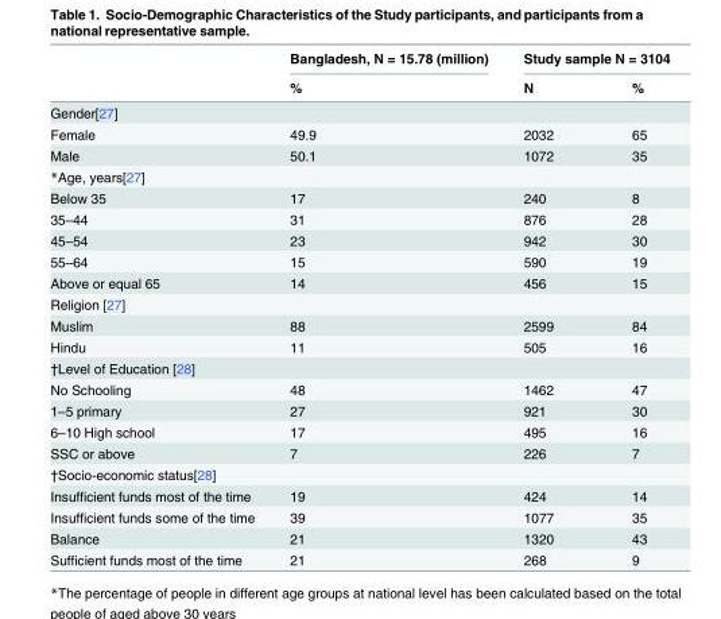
<table><thead><tr><td rowspan="2"></td><td rowspan="2">Bangladesh, N = 15.78 (million) %</td><td colspan="2">Study sample N = 3104</td></tr><tr><td>N</td><td>%</td></tr></thead><tbody><tr><td colspan="4">Gender[27]</td></tr><tr><td>Female</td><td>49.9</td><td>2032</td><td>65</td></tr><tr><td>Male</td><td>50.1</td><td>1072</td><td>35</td></tr><tr><td colspan="4">*Age, years[27]</td></tr><tr><td>Below 35</td><td>17</td><td>240</td><td>8</td></tr><tr><td>35–44</td><td>31</td><td>876</td><td>28</td></tr><tr><td>45–54</td><td>23</td><td>942</td><td>30</td></tr><tr><td>55–64</td><td>15</td><td>590</td><td>19</td></tr><tr><td>Above or equal 65</td><td>14</td><td>456</td><td>15</td></tr><tr><td colspan="4">Religion [27]</td></tr><tr><td>Muslim</td><td>88</td><td>2599</td><td>84</td></tr><tr><td>Hindu</td><td>11</td><td>505</td><td>16</td></tr><tr><td colspan="4">†Level of Education [28]</td></tr><tr><td>No Schooling</td><td>48</td><td>1462</td><td>47</td></tr><tr><td>1–5 primary</td><td>27</td><td>921</td><td>30</td></tr><tr><td>6–10 High school</td><td>17</td><td>495</td><td>16</td></tr><tr><td>SSC or above</td><td>7</td><td>226</td><td>7</td></tr><tr><td colspan="4">†Socio-economic status[28]</td></tr><tr><td>Insufficient funds most of the time</td><td>19</td><td>424</td><td>14</td></tr><tr><td>Insufficient funds some of the time</td><td>39</td><td>1077</td><td>35</td></tr><tr><td>Balance</td><td>21</td><td>1320</td><td>43</td></tr><tr><td>Sufficient funds most of the time</td><td>21</td><td>268</td><td>9</td></tr></tbody></table>